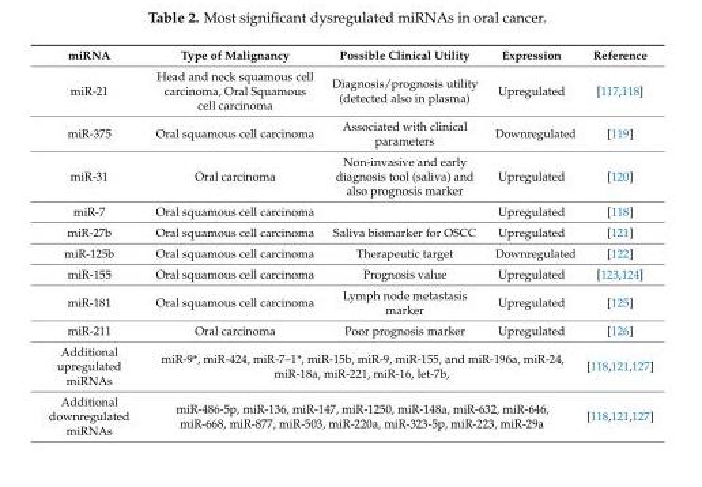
<table><thead><tr><td>miRNA</td><td>Type of Malignancy</td><td>Possible Clinical Utility</td><td>Expression</td><td>Reference</td></tr></thead><tbody><tr><td>miR-21</td><td>Head and neck squamous cell carcinoma, Oral Squamous cell carcinoma</td><td>Diagnosis/prognosis utility (detected also in plasma)</td><td>Upregulated</td><td>[117,118]</td></tr><tr><td>miR-375</td><td>Oral squamous cell carcinoma</td><td>Associated with clinical parameters</td><td>Downregulated</td><td>[119]</td></tr><tr><td>miR-31</td><td>Oral carcinoma</td><td>Non-invasive and early diagnosis tool (saliva) and also prognosis marker</td><td>Upregulated</td><td>[120]</td></tr><tr><td>miR-7</td><td>Oral squamous cell carcinoma</td><td></td><td>Upregulated</td><td>[118]</td></tr><tr><td>miR-27b</td><td>Oral squamous cell carcinoma</td><td>Saliva biomarker for OSCC</td><td>Upregulated</td><td>[121]</td></tr><tr><td>miR-125b</td><td>Oral squamous cell carcinoma</td><td>Therapeutic target</td><td>Downregulated</td><td>[122]</td></tr><tr><td>miR-155</td><td>Oral squamous cell carcinoma</td><td>Prognosis value</td><td>Upregulated</td><td>[123,124]</td></tr><tr><td>miR-181</td><td>Oral squamous cell carcinoma</td><td>Lymph node metastasis marker</td><td>Upregulated</td><td>[125]</td></tr><tr><td>miR-211</td><td>Oral carcinoma</td><td>Poor prognosis marker</td><td>Upregulated</td><td>[126]</td></tr><tr><td>Additional upregulated miRNAs</td><td colspan="3">miR-9*, miR-424, miR-7–1*, miR-15b, miR-9, miR-155, and miR-196a, miR-24, miR-18a, miR-221, miR-16, let-7b,</td><td>[118,121,127]</td></tr><tr><td>Additional downregulated miRNAs</td><td colspan="3">miR-486-5p, miR-136, miR-147, miR-1250, miR-148a, miR-632, miR-646, miR-668, miR-877, miR-503, miR-220a, miR-323-5p, miR-223, miR-29a</td><td>[118,121,127]</td></tr></tbody></table>